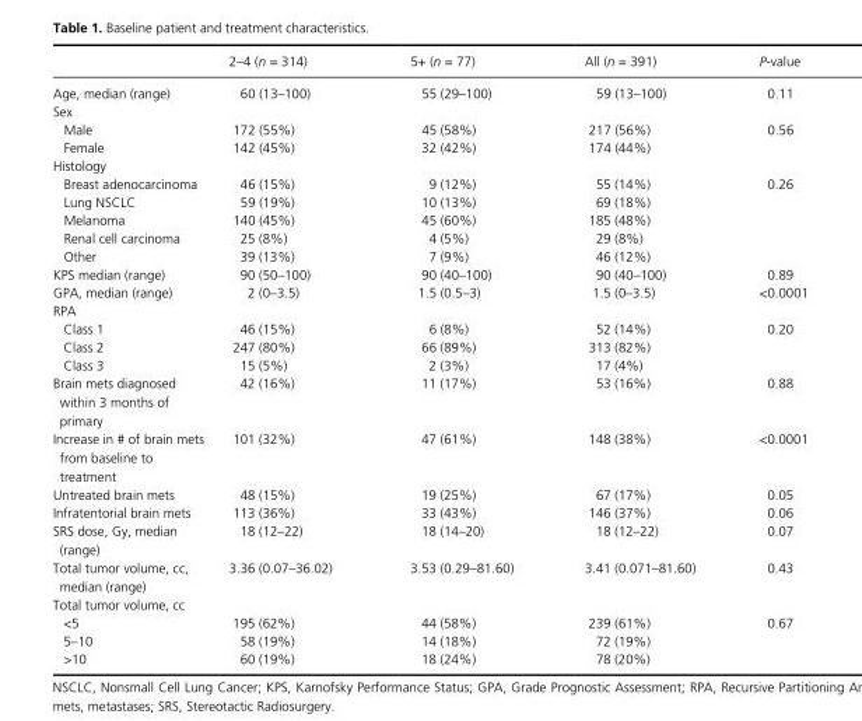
<table><thead><tr><td></td><td>2–4 (n = 314)</td><td>5+ (n = 77)</td><td>All (n = 391)</td><td>P- value</td></tr></thead><tbody><tr><td>Age, median (range)</td><td>60 (13–100)</td><td>55 (29–100)</td><td>59 (13–100)</td><td>0.11</td></tr><tr><td colspan="5">Sex</td></tr><tr><td>Male</td><td>172 (55%)</td><td>45 (58%)</td><td>217 (56%)</td><td rowspan="2">0.56</td></tr><tr><td>Female</td><td>142 (45%)</td><td>32 (42%)</td><td>174 (44%)</td></tr><tr><td colspan="5">Histology</td></tr><tr><td>Breast adenocarcinoma</td><td>46 (15%)</td><td>9 (12%)</td><td>55 (14%)</td><td rowspan="5">0.26</td></tr><tr><td>Lung NSCLC</td><td>59 (19%)</td><td>10 (13%)</td><td>69 (18%)</td></tr><tr><td>Melanoma</td><td>140 (45%)</td><td>45 (60%)</td><td>185 (48%)</td></tr><tr><td>Renal cell carcinoma</td><td>25 (8%)</td><td>4 (5%)</td><td>29 (8%)</td></tr><tr><td>Other</td><td>39 (13%)</td><td>7 (9%)</td><td>46 (12%)</td></tr><tr><td>KPS median (range)</td><td>90 (50–100)</td><td>90 (40–100)</td><td>90 (40–100)</td><td>0.89</td></tr><tr><td>GPA, median (range)</td><td>2 (0–3.5)</td><td>1.5 (0.5–3)</td><td>1.5 (0–3.5)</td><td>&lt;0.0001</td></tr><tr><td colspan="5">RPA</td></tr><tr><td>Class 1</td><td>46 (15%)</td><td>6 (8%)</td><td>52 (14%)</td><td rowspan="3">0.20</td></tr><tr><td>Class 2</td><td>247 (80%)</td><td>66 (89%)</td><td>313 (82%)</td></tr><tr><td>Class 3</td><td>15 (5%)</td><td>2 (3%)</td><td>17 (4%)</td></tr><tr><td>Brain mets diagnosed within 3 months of primary</td><td>42 (16%)</td><td>11 (17%)</td><td>53 (16%)</td><td>0.88</td></tr><tr><td>Increase in # of brain mets from baseline to treatment</td><td>101 (32%)</td><td>47 (61%)</td><td>148 (38%)</td><td>&lt;0.0001</td></tr><tr><td>Untreated brain mets</td><td>48 (15%)</td><td>19 (25%)</td><td>67 (17%)</td><td>0.05</td></tr><tr><td>Infratentorial brain mets</td><td>113 (36%)</td><td>33 (43%)</td><td>146 (37%)</td><td>0.06</td></tr><tr><td>SRS dose, Gy, median (range)</td><td>18 (12–22)</td><td>18 (14–20)</td><td>18 (12–22)</td><td>0.07</td></tr><tr><td>Total tumor volume, cc, median (range)</td><td>3.36 (0.07–36.02)</td><td>3.53 (0.29–81.60)</td><td>3.41 (0.071–81.60)</td><td>0.43</td></tr><tr><td colspan="5">Total tumor volume, cc</td></tr><tr><td>&lt;5</td><td>195 (62%)</td><td>44 (58%)</td><td>239 (61%)</td><td rowspan="3">0.67</td></tr><tr><td>5–10</td><td>58 (19%)</td><td>14 (18%)</td><td>72 (19%)</td></tr><tr><td>&gt;10</td><td>60 (19%)</td><td>18 (24%)</td><td>78 (20%)</td></tr></tbody></table>